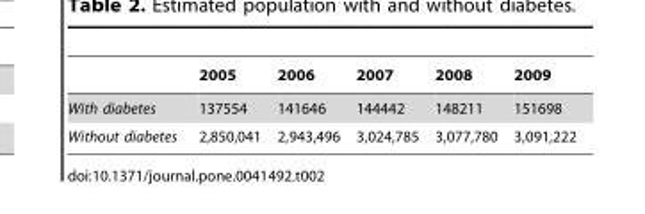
<table><thead><tr><td></td><td>2005</td><td>2006</td><td>2007</td><td>2008</td><td>2009</td></tr></thead><tbody><tr><td>With diabetes</td><td>137554</td><td>141646</td><td>144442</td><td>148211</td><td>151698</td></tr><tr><td>Without diabetes</td><td>2,850,041</td><td>2,943,496</td><td>3,024,785</td><td>3,077,780</td><td>3,091,222</td></tr></tbody></table>